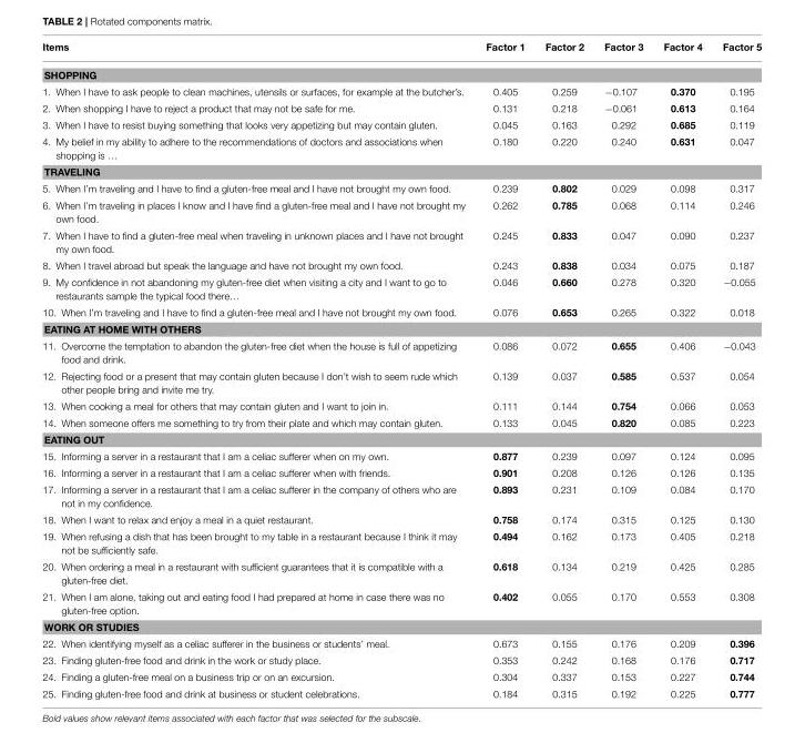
<table><thead><tr><td>Items</td><td>Factor 1</td><td>Factor 2</td><td>Factor 3</td><td>Factor 4</td><td>Factor 5</td></tr></thead><tbody><tr><td colspan="6">SHOPPING</td></tr><tr><td>1. When I have to ask people to clean machines, utensils or surfaces, for example at the butcher’s.</td><td>0.405</td><td>0.259</td><td>−0.107</td><td>0.370</td><td>0.195</td></tr><tr><td>2. When shopping I have to reject a product that may not be safe for me.</td><td>0.131</td><td>0.218</td><td>−0.061</td><td>0.613</td><td>0.164</td></tr><tr><td>3. When I have to resist buying something that looks very appetizing but may contain gluten.</td><td>0.045</td><td>0.163</td><td>0.292</td><td>0.685</td><td>0.119</td></tr><tr><td>4. My belief in my ability to adhere to the recommendations of doctors and associations when shopping is …</td><td>0.180</td><td>0.220</td><td>0.240</td><td>0.631</td><td>0.047</td></tr><tr><td colspan="6">TRAVELING</td></tr><tr><td>5. When I’m traveling and I have to find a gluten-free meal and I have not brought my own food.</td><td>0.239</td><td>0.802</td><td>0.029</td><td>0.098</td><td>0.317</td></tr><tr><td>6. When I’m traveling in places I know and I have find a gluten-free meal and I have not brought my own food.</td><td>0.262</td><td>0.785</td><td>0.068</td><td>0.114</td><td>0.246</td></tr><tr><td>7. When I have to find a gluten-free meal when traveling in unknown places and I have not brought my own food.</td><td>0.245</td><td>0.833</td><td>0.047</td><td>0.090</td><td>0.237</td></tr><tr><td>8. When I travel abroad but speak the language and have not brought my own food.</td><td>0.243</td><td>0.838</td><td>0.034</td><td>0.075</td><td>0.187</td></tr><tr><td>9. My confidence in not abandoning my gluten-free diet when visiting a city and I want to go to restaurants sample the typical food there…</td><td>0.046</td><td>0.660</td><td>0.278</td><td>0.320</td><td>−0.055</td></tr><tr><td>10. When I’m traveling and I have to find a gluten-free meal and I have not brought my own food.</td><td>0.076</td><td>0.653</td><td>0.265</td><td>0.322</td><td>0.018</td></tr><tr><td colspan="6">EATING AT HOME WITH OTHERS</td></tr><tr><td>11. Overcome the temptation to abandon the gluten-free diet when the house is full of appetizing food and drink.</td><td>0.086</td><td>0.072</td><td>0.655</td><td>0.406</td><td>−0.043</td></tr><tr><td>12. Rejecting food or a present that may contain gluten because I don’t wish to seem rude which other people bring and invite me try.</td><td>0.139</td><td>0.037</td><td>0.585</td><td>0.537</td><td>0.054</td></tr><tr><td>13. When cooking a meal for others that may contain gluten and I want to join in.</td><td>0.111</td><td>0.144</td><td>0.754</td><td>0.066</td><td>0.053</td></tr><tr><td>14. When someone offers me something to try from their plate and which may contain gluten.</td><td>0.133</td><td>0.045</td><td>0.820</td><td>0.085</td><td>0.223</td></tr><tr><td colspan="6">EATING OUT</td></tr><tr><td>15. Informing a server in a restaurant that I am a celiac sufferer when on my own.</td><td>0.877</td><td>0.239</td><td>0.097</td><td>0.124</td><td>0.095</td></tr><tr><td>16. Informing a server in a restaurant that I am a celiac sufferer when with friends.</td><td>0.901</td><td>0.208</td><td>0.126</td><td>0.126</td><td>0.135</td></tr><tr><td>17. Informing a server in a restaurant that I am a celiac sufferer in the company of others who are not in my confidence.</td><td>0.893</td><td>0.231</td><td>0.109</td><td>0.084</td><td>0.170</td></tr><tr><td>18. When I want to relax and enjoy a meal in a quiet restaurant.</td><td>0.758</td><td>0.174</td><td>0.315</td><td>0.125</td><td>0.130</td></tr><tr><td>19. When refusing a dish that has been brought to my table in a restaurant because I think it may not be sufficiently safe.</td><td>0.494</td><td>0.162</td><td>0.173</td><td>0.405</td><td>0.218</td></tr><tr><td>20. When ordering a meal in a restaurant with sufficient guarantees that it is compatible with a gluten-free diet.</td><td>0.618</td><td>0.134</td><td>0.219</td><td>0.425</td><td>0.285</td></tr><tr><td>21. When I am alone, taking out and eating food I had prepared at home in case there was no gluten-free option.</td><td>0.402</td><td>0.055</td><td>0.170</td><td>0.553</td><td>0.308</td></tr><tr><td colspan="6">WORK OR STUDIES</td></tr><tr><td>22. When identifying myself as a celiac sufferer in the business or students’ meal.</td><td>0.673</td><td>0.155</td><td>0.176</td><td>0.209</td><td>0.396</td></tr><tr><td>23. Finding gluten-free food and drink in the work or study place.</td><td>0.353</td><td>0.242</td><td>0.168</td><td>0.176</td><td>0.717</td></tr><tr><td>24. Finding a gluten-free meal on a business trip or on an excursion.</td><td>0.304</td><td>0.337</td><td>0.153</td><td>0.227</td><td>0.744</td></tr><tr><td>25. Finding gluten-free food and drink at business or student celebrations.</td><td>0.184</td><td>0.315</td><td>0.192</td><td>0.225</td><td>0.777</td></tr></tbody></table>